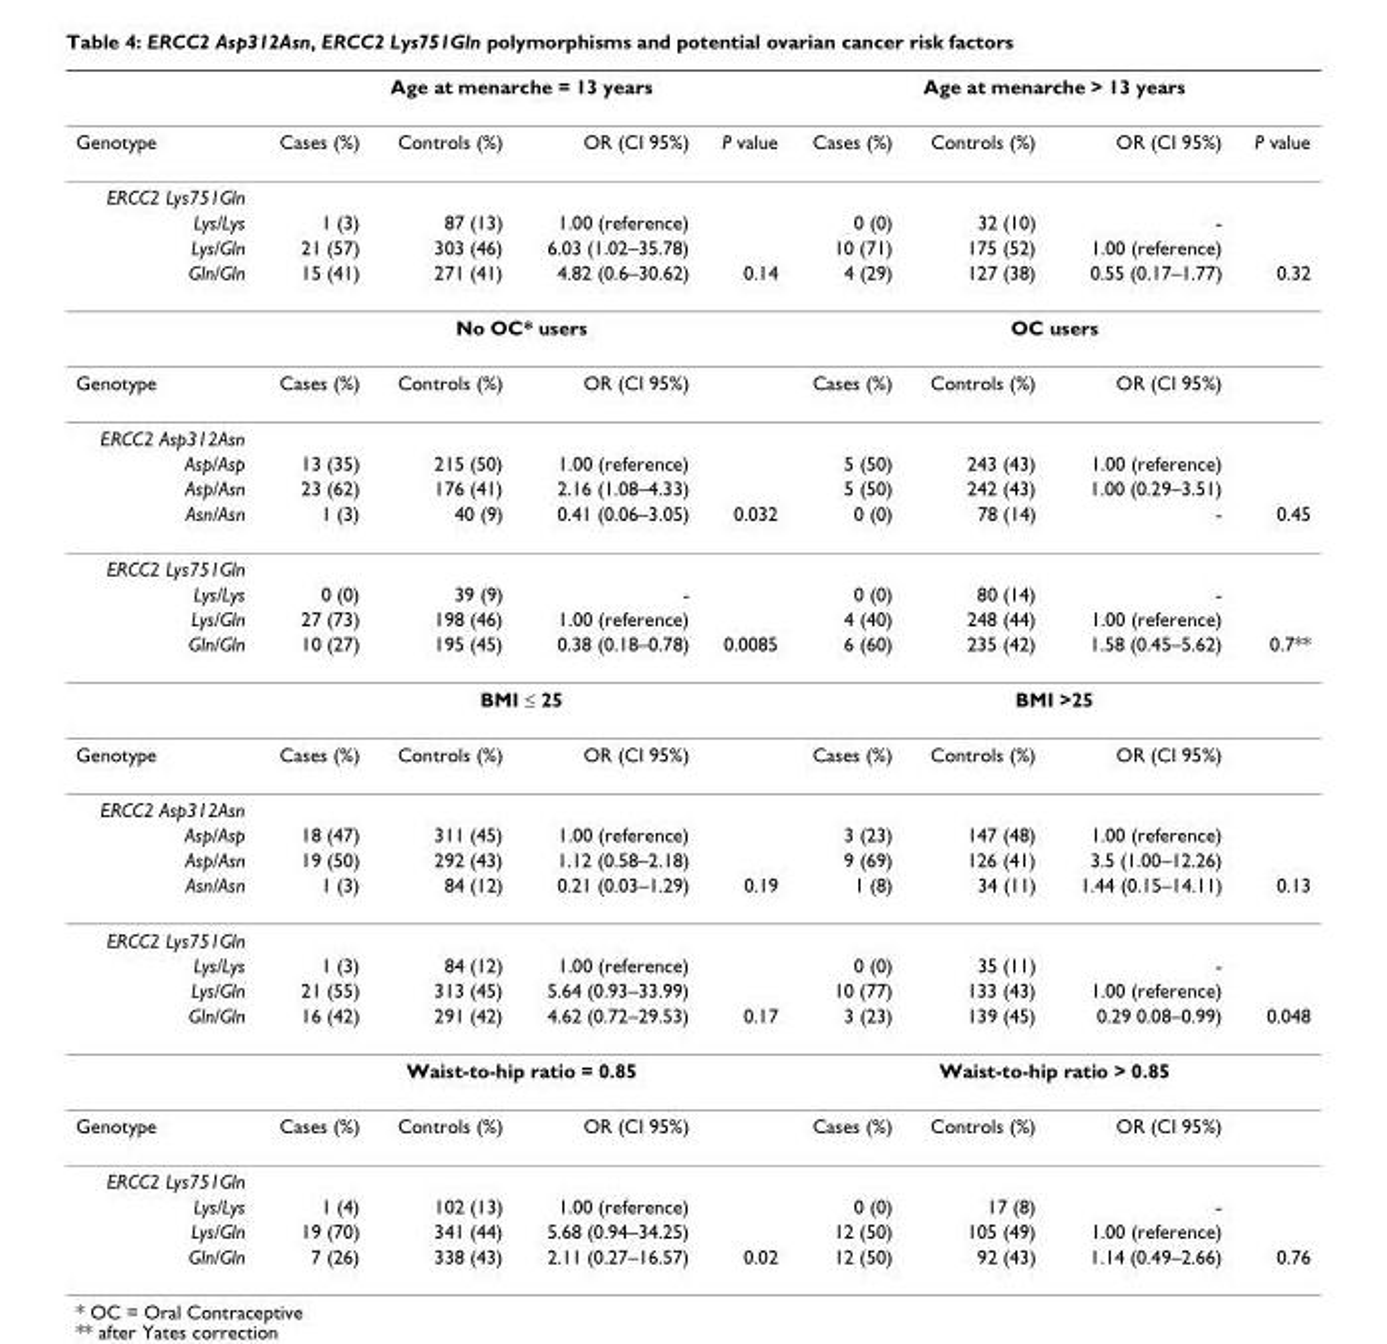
<table><thead><tr><td rowspan="2">Genotype</td><td colspan="4">Age at menarche = 13 years</td><td colspan="4">Age at menarche &gt; 13 years</td></tr><tr><td>Cases (%)</td><td>Controls (%)</td><td>OR (CI 95%)</td><td>P value</td><td>Cases (%)</td><td>Controls (%)</td><td>OR (CI 95%)</td><td>P value</td></tr></thead><tbody><tr><td colspan="9">ERCC2 Lys751Gln</td></tr><tr><td>Lys/Lys</td><td>1 (3)</td><td>87 (13)</td><td>1.00 (reference)</td><td></td><td>0 (0)</td><td>32 (10)</td><td>-</td><td></td></tr><tr><td>Lys/Gln</td><td>21 (57)</td><td>303 (46)</td><td>6.03 (1.02–35.78)</td><td></td><td>10 (71)</td><td>175 (52)</td><td>1.00 (reference)</td><td></td></tr><tr><td rowspan="2">Gln/Gln</td><td>15 (41)</td><td>271 (41)</td><td>4.82 (0.6–30.62)</td><td>0.14</td><td>4 (29)</td><td>127 (38)</td><td>0.55 (0.17–1.77)</td><td>0.32</td></tr><tr><td colspan="4">No OC* users</td><td colspan="4">OC users</td></tr><tr><td>Genotype</td><td>Cases (%)</td><td>Controls (%)</td><td>OR (CI 95%)</td><td></td><td>Cases (%)</td><td>Controls (%)</td><td>OR (CI 95%)</td><td></td></tr><tr><td colspan="9">ERCC2 Asp312Asn</td></tr><tr><td>Asp/Asp</td><td>13 (35)</td><td>215 (50)</td><td>1.00 (reference)</td><td></td><td>5 (50)</td><td>243 (43)</td><td>1.00 (reference)</td><td></td></tr><tr><td>Asp/Asn</td><td>23 (62)</td><td>176 (41)</td><td>2.16 (1.08–4.33)</td><td></td><td>5 (50)</td><td>242 (43)</td><td>1.00 (0.29–3.51)</td><td></td></tr><tr><td>Asn/Asn</td><td>1 (3)</td><td>40 (9)</td><td>0.41 (0.06–3.05)</td><td>0.032</td><td>0 (0)</td><td>78 (14)</td><td>-</td><td>0.45</td></tr><tr><td colspan="9">ERCC2 Lys751Gln</td></tr><tr><td>Lys/Lys</td><td>0 (0)</td><td>39 (9)</td><td>-</td><td></td><td>0 (0)</td><td>80 (14)</td><td>-</td><td></td></tr><tr><td>Lys/Gln</td><td>27 (73)</td><td>198 (46)</td><td>1.00 (reference)</td><td></td><td>4 (40)</td><td>248 (44)</td><td>1.00 (reference)</td><td></td></tr><tr><td rowspan="2">Gln/Gln</td><td>10 (27)</td><td>195 (45)</td><td>0.38 (0.18–0.78)</td><td>0.0085</td><td>6 (60)</td><td>235 (42)</td><td>1.58 (0.45–5.62)</td><td>0.7**</td></tr><tr><td colspan="4">BMI ≤ 25</td><td colspan="4">BMI &gt;25</td></tr><tr><td>Genotype</td><td>Cases (%)</td><td>Controls (%)</td><td>OR (CI 95%)</td><td></td><td>Cases (%)</td><td>Controls (%)</td><td>OR (CI 95%)</td><td></td></tr><tr><td colspan="9">ERCC2 Asp312Asn</td></tr><tr><td>Asp/Asp</td><td>18 (47)</td><td>311 (45)</td><td>1.00 (reference)</td><td></td><td>3 (23)</td><td>147 (48)</td><td>1.00 (reference)</td><td></td></tr><tr><td>Asp/Asn</td><td>19 (50)</td><td>292 (43)</td><td>1.12 (0.58–2.18)</td><td></td><td>9 (69)</td><td>126 (41)</td><td>3.5 (1.00–12.26)</td><td></td></tr><tr><td>Asn/Asn</td><td>1 (3)</td><td>84 (12)</td><td>0.21 (0.03–1.29)</td><td>0.19</td><td>1 (8)</td><td>34 (11)</td><td>1.44 (0.15–14.11)</td><td>0.13</td></tr><tr><td colspan="9">ERCC2 Lys751Gln</td></tr><tr><td>Lys/Lys</td><td>1 (3)</td><td>84 (12)</td><td>1.00 (reference)</td><td></td><td>0 (0)</td><td>35 (11)</td><td>-</td><td></td></tr><tr><td>Lys/Gln</td><td>21 (55)</td><td>313 (45)</td><td>5.64 (0.93–33.99)</td><td></td><td>10 (77)</td><td>133 (43)</td><td>1.00 (reference)</td><td></td></tr><tr><td rowspan="2">Gln/Gln</td><td>16 (42)</td><td>291 (42)</td><td>4.62 (0.72–29.53)</td><td>0.17</td><td>3 (23)</td><td>139 (45)</td><td>0.29 0.08–0.99)</td><td>0.048</td></tr><tr><td colspan="4">Waist-to-hip ratio = 0.85</td><td colspan="4">Waist-to-hip ratio &gt; 0.85</td></tr><tr><td>Genotype</td><td>Cases (%)</td><td>Controls (%)</td><td>OR (CI 95%)</td><td></td><td>Cases (%)</td><td>Controls (%)</td><td>OR (CI 95%)</td><td></td></tr><tr><td colspan="9">ERCC2 Lys751Gln</td></tr><tr><td>Lys/Lys</td><td>1 (4)</td><td>102 (13)</td><td>1.00 (reference)</td><td></td><td>0 (0)</td><td>17 (8)</td><td>-</td><td></td></tr><tr><td>Lys/Gln</td><td>19 (70)</td><td>341 (44)</td><td>5.68 (0.94–34.25)</td><td></td><td>12 (50)</td><td>105 (49)</td><td>1.00 (reference)</td><td></td></tr><tr><td>Gln/Gln</td><td>7 (26)</td><td>338 (43)</td><td>2.11 (0.27–16.57)</td><td>0.02</td><td>12 (50)</td><td>92 (43)</td><td>1.14 (0.49–2.66)</td><td>0.76</td></tr></tbody></table>